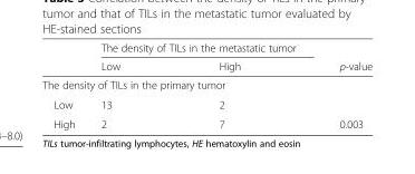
<table><thead><tr><td rowspan="2"></td><td colspan="2">The density of TILs in the metastatic tumor</td><td rowspan="2">p-value</td></tr><tr><td>Low</td><td>High</td></tr></thead><tbody><tr><td colspan="4">The density of TILs in the primary tumor</td></tr><tr><td>Low</td><td>13</td><td>2</td><td></td></tr><tr><td>High</td><td>2</td><td>7</td><td>0.003</td></tr></tbody></table>